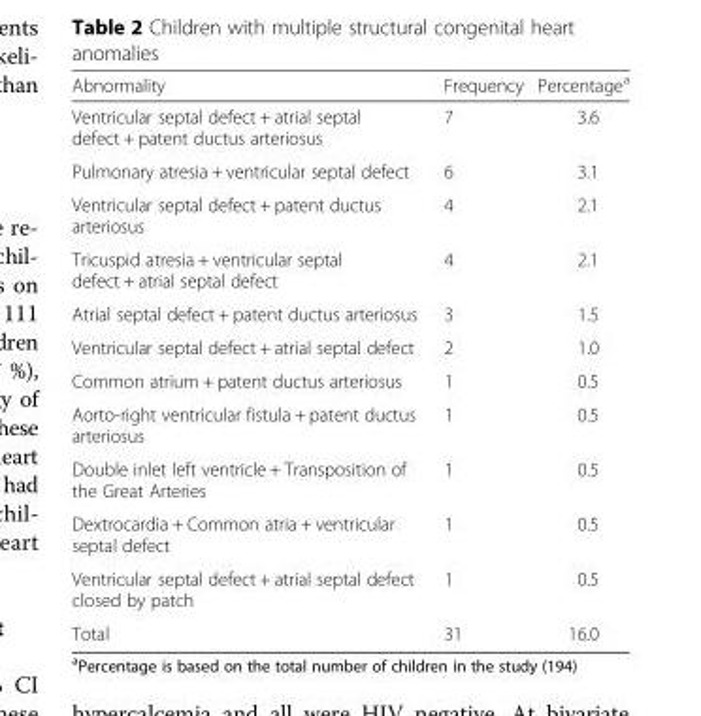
<table><thead><tr><td>Abnormality</td><td>Frequency</td><td>Percentage<sup>a</sup></td></tr></thead><tbody><tr><td>Ventricular septal defect + atrial septal defect + patent ductus arteriosus</td><td>7</td><td>3.6</td></tr><tr><td>Pulmonary atresia + ventricular septal defect</td><td>6</td><td>3.1</td></tr><tr><td>Ventricular septal defect + patent ductus arteriosus</td><td>4</td><td>2.1</td></tr><tr><td>Tricuspid atresia + ventricular septal defect + atrial septal defect</td><td>4</td><td>2.1</td></tr><tr><td>Atrial septal defect + patent ductus arteriosus</td><td>3</td><td>1.5</td></tr><tr><td>Ventricular septal defect + atrial septal defect</td><td>2</td><td>1.0</td></tr><tr><td>Common atrium + patent ductus arteriosus</td><td>1</td><td>0.5</td></tr><tr><td>Aorto-right ventricular fistula + patent ductus arteriosus</td><td>1</td><td>0.5</td></tr><tr><td>Double inlet left ventricle + Transposition of the Great Arteries</td><td>1</td><td>0.5</td></tr><tr><td>Dextrocardia + Common atria + ventricular septal defect</td><td>1</td><td>0.5</td></tr><tr><td>Ventricular septal defect + atrial septal defect closed by patch</td><td>1</td><td>0.5</td></tr><tr><td>Total</td><td>31</td><td>16.0</td></tr></tbody></table>